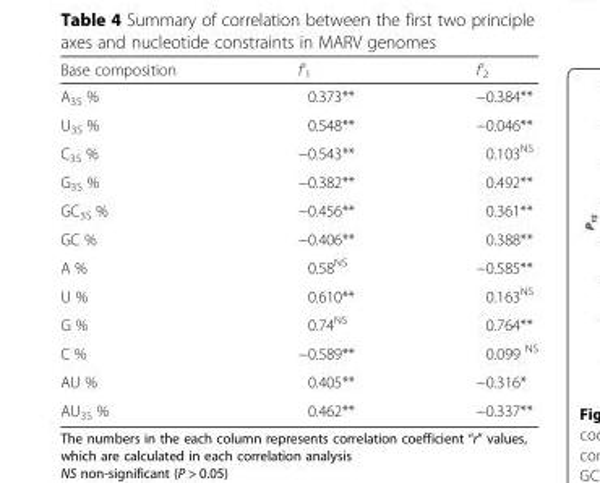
<table><thead><tr><td>Base composition</td><td>f&#x27;<sub>1</sub></td><td>f&#x27;<sub>2</sub></td></tr></thead><tbody><tr><td>A<sub>3S</sub> %</td><td>0.373**</td><td>−0.384**</td></tr><tr><td>U<sub>3S</sub> %</td><td>0.548**</td><td>−0.046**</td></tr><tr><td>C<sub>3S</sub> %</td><td>−0.543**</td><td>0.103<sup>NS</sup></td></tr><tr><td>G<sub>3S</sub> %</td><td>−0.382**</td><td>0.492**</td></tr><tr><td>GC<sub>3S</sub> %</td><td>−0.456**</td><td>0.361**</td></tr><tr><td>GC %</td><td>−0.406**</td><td>0.388**</td></tr><tr><td>A %</td><td>0.58<sup>NS</sup></td><td>−0.585**</td></tr><tr><td>U %</td><td>0.610**</td><td>0.163<sup>NS</sup></td></tr><tr><td>G %</td><td>0.74<sup>NS</sup></td><td>0.764**</td></tr><tr><td>C %</td><td>−0.589**</td><td>0.099 <sup>NS</sup></td></tr><tr><td>AU %</td><td>0.405**</td><td>−0.316*</td></tr><tr><td>AU<sub>3S</sub> %</td><td>0.462**</td><td>−0.337**</td></tr></tbody></table>